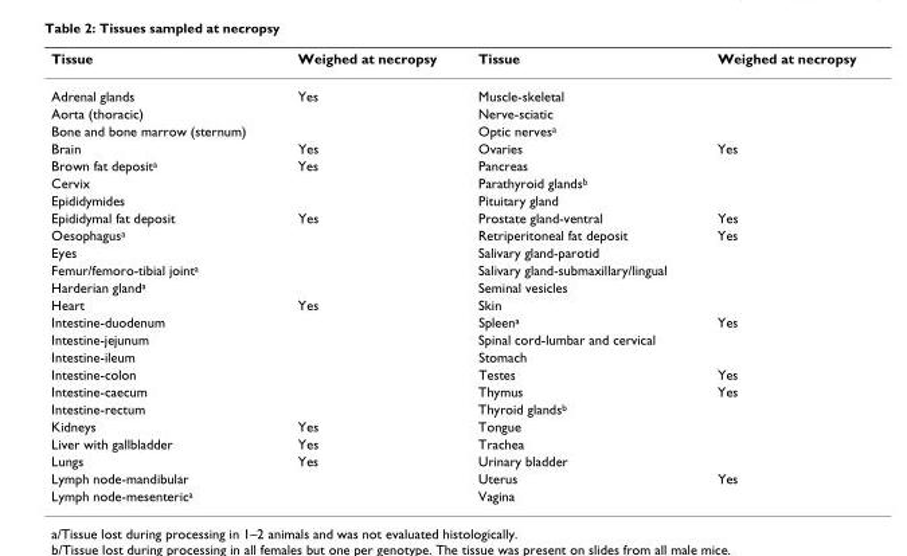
<table><thead><tr><td>Tissue</td><td>Weighed at necropsy</td><td>Tissue</td><td>Weighed at necropsy</td></tr></thead><tbody><tr><td>Adrenal glands</td><td>Yes</td><td>Muscle-skeletal</td><td></td></tr><tr><td>Aorta (thoracic)</td><td></td><td>Nerve-sciatic</td><td></td></tr><tr><td>Bone and bone marrow (sternum)</td><td></td><td>Optic nerves<sup>a</sup></td><td></td></tr><tr><td>Brain</td><td>Yes</td><td>Ovaries</td><td>Yes</td></tr><tr><td>Brown fat deposit<sup>a</sup></td><td>Yes</td><td>Pancreas</td><td></td></tr><tr><td>Cervix</td><td></td><td>Parathyroid glands<sup>b</sup></td><td></td></tr><tr><td>Epididymides</td><td></td><td>Pituitary gland</td><td></td></tr><tr><td>Epididymal fat deposit</td><td>Yes</td><td>Prostate gland-ventral</td><td>Yes</td></tr><tr><td>Oesophagus<sup>a</sup></td><td></td><td>Retriperitoneal fat deposit</td><td>Yes</td></tr><tr><td>Eyes</td><td></td><td>Salivary gland-parotid</td><td></td></tr><tr><td>Femur/femoro-tibial joint<sup>a</sup></td><td></td><td>Salivary gland-submaxillary/lingual</td><td></td></tr><tr><td>Harderian gland<sup>a</sup></td><td></td><td>Seminal vesicles</td><td></td></tr><tr><td>Heart</td><td>Yes</td><td>Skin</td><td></td></tr><tr><td>Intestine-duodenum</td><td></td><td>Spleen<sup>a</sup></td><td>Yes</td></tr><tr><td>Intestine-jejunum</td><td></td><td>Spinal cord-lumbar and cervical</td><td></td></tr><tr><td>Intestine-ileum</td><td></td><td>Stomach</td><td></td></tr><tr><td>Intestine-colon</td><td></td><td>Testes</td><td>Yes</td></tr><tr><td>Intestine-caecum</td><td></td><td>Thymus</td><td>Yes</td></tr><tr><td>Intestine-rectum</td><td></td><td>Thyroid glands<sup>b</sup></td><td></td></tr><tr><td>Kidneys</td><td>Yes</td><td>Tongue</td><td></td></tr><tr><td>Liver with gallbladder</td><td>Yes</td><td>Trachea</td><td></td></tr><tr><td>Lungs</td><td>Yes</td><td>Urinary bladder</td><td></td></tr><tr><td>Lymph node-mandibular</td><td></td><td>Uterus</td><td>Yes</td></tr><tr><td>Lymph node-mesenteric<sup>a</sup></td><td></td><td>Vagina</td><td></td></tr></tbody></table>